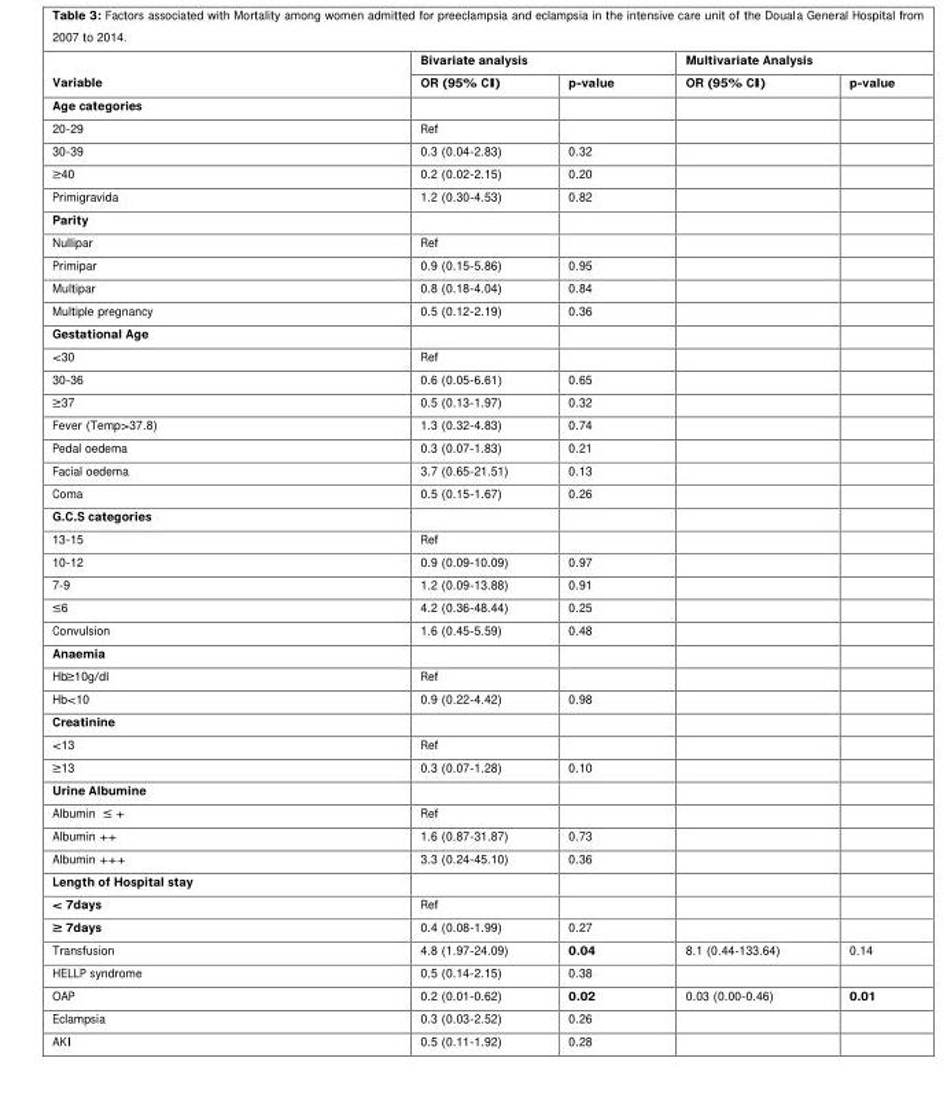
<table><thead><tr><td rowspan="2">Variable</td><td colspan="2">Bivariate analysis</td><td colspan="2">Multivariate Analysis</td></tr><tr><td>OR (95% CI)</td><td>p-value</td><td>OR (95% CI)</td><td>p-value</td></tr></thead><tbody><tr><td colspan="5">Age categories</td></tr><tr><td>20-29</td><td>Ref</td><td></td><td></td><td></td></tr><tr><td>30-39</td><td>0.3 (0.04-2.83)</td><td>0.32</td><td></td><td></td></tr><tr><td>≥40</td><td>0.2 (0.02-2.15)</td><td>0.20</td><td></td><td></td></tr><tr><td>Primigravida</td><td>1.2 (0.30-4.53)</td><td>0.82</td><td></td><td></td></tr><tr><td colspan="5">Parity</td></tr><tr><td>Nullipar</td><td>Ref</td><td></td><td></td><td></td></tr><tr><td>Primipar</td><td>0.9 (0.15-5.86)</td><td>0.95</td><td></td><td></td></tr><tr><td>Multipar</td><td>0.8 (0.18-4.04)</td><td>0.84</td><td></td><td></td></tr><tr><td>Multiple pregnancy</td><td>0.5 (0.12-2.19)</td><td>0.36</td><td></td><td></td></tr><tr><td colspan="5">Gestational Age</td></tr><tr><td>&lt;30</td><td>Ref</td><td></td><td></td><td></td></tr><tr><td>30-36</td><td>0.6 (0.05-6.61)</td><td>0.65</td><td></td><td></td></tr><tr><td>≥37</td><td>0.5 (0.13-1.97)</td><td>0.32</td><td></td><td></td></tr><tr><td>Fever (Temp&gt;37.8)</td><td>1.3 (0.32-4.83)</td><td>0.74</td><td></td><td></td></tr><tr><td>Pedal oedema</td><td>0.3 (0.07-1.83)</td><td>0.21</td><td></td><td></td></tr><tr><td>Facial oedema</td><td>3.7 (0.65-21.51)</td><td>0.13</td><td></td><td></td></tr><tr><td>Coma</td><td>0.5 (0.15-1.67)</td><td>0.26</td><td></td><td></td></tr><tr><td colspan="5">G.C.S categories</td></tr><tr><td>13-15</td><td>Ref</td><td></td><td></td><td></td></tr><tr><td>10-12</td><td>0.9 (0.09-10.09)</td><td>0.97</td><td></td><td></td></tr><tr><td>7-9</td><td>1.2 (0.09-13.88)</td><td>0.91</td><td></td><td></td></tr><tr><td>≤6</td><td>4.2 (0.36-48.44)</td><td>0.25</td><td></td><td></td></tr><tr><td>Convulsion</td><td>1.6 (0.45-5.59)</td><td>0.48</td><td></td><td></td></tr><tr><td colspan="5">Anaemia</td></tr><tr><td>Hb≥10g/dl</td><td>Ref</td><td></td><td></td><td></td></tr><tr><td>Hb&lt;10</td><td>0.9 (0.22-4.42)</td><td>0.98</td><td></td><td></td></tr><tr><td colspan="5">Creatinine</td></tr><tr><td>&lt;13</td><td>Ref</td><td></td><td></td><td></td></tr><tr><td>≥13</td><td>0.3 (0.07-1.28)</td><td>0.10</td><td></td><td></td></tr><tr><td colspan="5">Urine Albumine</td></tr><tr><td>Albumin ≤ +</td><td>Ref</td><td></td><td></td><td></td></tr><tr><td>Albumin ++</td><td>1.6 (0.87-31.87)</td><td>0.73</td><td></td><td></td></tr><tr><td>Albumin +++</td><td>3.3 (0.24-45.10)</td><td>0.36</td><td></td><td></td></tr><tr><td colspan="5">Length of Hospital stay</td></tr><tr><td>&lt; 7days</td><td>Ref</td><td></td><td></td><td></td></tr><tr><td>≥ 7days</td><td>0.4 (0.08-1.99)</td><td>0.27</td><td></td><td></td></tr><tr><td>Transfusion</td><td>4.8 (1.97-24.09)</td><td>0.04</td><td>8.1 (0.44-133.64)</td><td>0.14</td></tr><tr><td>HELLP syndrome</td><td>0.5 (0.14-2.15)</td><td>0.38</td><td></td><td></td></tr><tr><td>OAP</td><td>0.2 (0.01-0.62)</td><td>0.02</td><td>0.03 (0.00-0.46)</td><td>0.01</td></tr><tr><td>Eclampsia</td><td>0.3 (0.03-2.52)</td><td>0.26</td><td></td><td></td></tr><tr><td>AKI</td><td>0.5 (0.11-1.92)</td><td>0.28</td><td></td><td></td></tr></tbody></table>